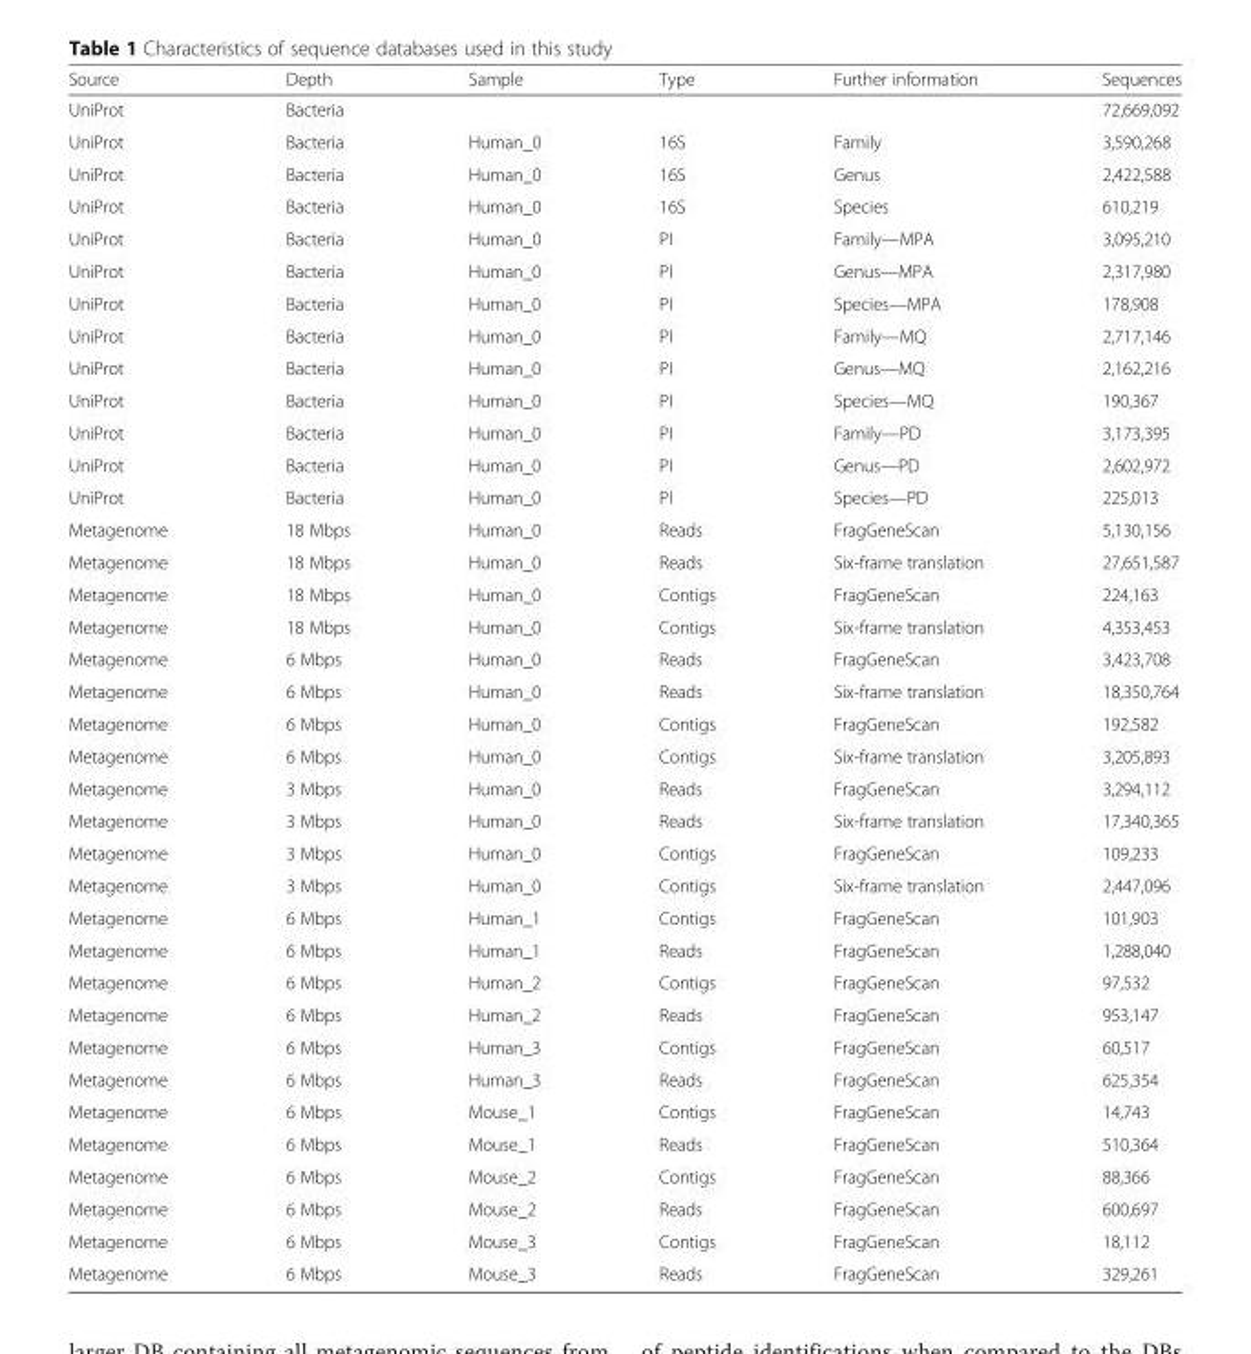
<table><thead><tr><td>Source</td><td>Depth</td><td>Sample</td><td>Type</td><td>Further information</td><td>Sequences</td></tr></thead><tbody><tr><td>UniProt</td><td>Bacteria</td><td></td><td></td><td></td><td>72,669,092</td></tr><tr><td>UniProt</td><td>Bacteria</td><td>Human_0</td><td>16S</td><td>Family</td><td>3,590,268</td></tr><tr><td>UniProt</td><td>Bacteria</td><td>Human_0</td><td>16S</td><td>Genus</td><td>2,422,588</td></tr><tr><td>UniProt</td><td>Bacteria</td><td>Human_0</td><td>16S</td><td>Species</td><td>610,219</td></tr><tr><td>UniProt</td><td>Bacteria</td><td>Human_0</td><td>PI</td><td>Family—MPA</td><td>3,095,210</td></tr><tr><td>UniProt</td><td>Bacteria</td><td>Human_0</td><td>PI</td><td>Genus—MPA</td><td>2,317,980</td></tr><tr><td>UniProt</td><td>Bacteria</td><td>Human_0</td><td>PI</td><td>Species—MPA</td><td>178,908</td></tr><tr><td>UniProt</td><td>Bacteria</td><td>Human_0</td><td>PI</td><td>Family—MQ</td><td>2,717,146</td></tr><tr><td>UniProt</td><td>Bacteria</td><td>Human_0</td><td>PI</td><td>Genus—MQ</td><td>2,162,216</td></tr><tr><td>UniProt</td><td>Bacteria</td><td>Human_0</td><td>PI</td><td>Species—MQ</td><td>190,367</td></tr><tr><td>UniProt</td><td>Bacteria</td><td>Human_0</td><td>PI</td><td>Family—PD</td><td>3,173,395</td></tr><tr><td>UniProt</td><td>Bacteria</td><td>Human_0</td><td>PI</td><td>Genus—PD</td><td>2,602,972</td></tr><tr><td>UniProt</td><td>Bacteria</td><td>Human_0</td><td>PI</td><td>Species—PD</td><td>225,013</td></tr><tr><td>Metagenome</td><td>18 Mbps</td><td>Human_0</td><td>Reads</td><td>FragGeneScan</td><td>5,130,156</td></tr><tr><td>Metagenome</td><td>18 Mbps</td><td>Human_0</td><td>Reads</td><td>Six-frame translation</td><td>27,651,587</td></tr><tr><td>Metagenome</td><td>18 Mbps</td><td>Human_0</td><td>Contigs</td><td>FragGeneScan</td><td>224,163</td></tr><tr><td>Metagenome</td><td>18 Mbps</td><td>Human_0</td><td>Contigs</td><td>Six-frame translation</td><td>4,353,453</td></tr><tr><td>Metagenome</td><td>6 Mbps</td><td>Human_0</td><td>Reads</td><td>FragGeneScan</td><td>3,423,708</td></tr><tr><td>Metagenome</td><td>6 Mbps</td><td>Human_0</td><td>Reads</td><td>Six-frame translation</td><td>18,350,764</td></tr><tr><td>Metagenome</td><td>6 Mbps</td><td>Human_0</td><td>Contigs</td><td>FragGeneScan</td><td>192,582</td></tr><tr><td>Metagenome</td><td>6 Mbps</td><td>Human_0</td><td>Contigs</td><td>Six-frame translation</td><td>3,205,893</td></tr><tr><td>Metagenome</td><td>3 Mbps</td><td>Human_0</td><td>Reads</td><td>FragGeneScan</td><td>3,294,112</td></tr><tr><td>Metagenome</td><td>3 Mbps</td><td>Human_0</td><td>Reads</td><td>Six-frame translation</td><td>17,340,365</td></tr><tr><td>Metagenome</td><td>3 Mbps</td><td>Human_0</td><td>Contigs</td><td>FragGeneScan</td><td>109,233</td></tr><tr><td>Metagenome</td><td>3 Mbps</td><td>Human_0</td><td>Contigs</td><td>Six-frame translation</td><td>2,447,096</td></tr><tr><td>Metagenome</td><td>6 Mbps</td><td>Human_1</td><td>Contigs</td><td>FragGeneScan</td><td>101,903</td></tr><tr><td>Metagenome</td><td>6 Mbps</td><td>Human_1</td><td>Reads</td><td>FragGeneScan</td><td>1,288,040</td></tr><tr><td>Metagenome</td><td>6 Mbps</td><td>Human_2</td><td>Contigs</td><td>FragGeneScan</td><td>97,532</td></tr><tr><td>Metagenome</td><td>6 Mbps</td><td>Human_2</td><td>Reads</td><td>FragGeneScan</td><td>953,147</td></tr><tr><td>Metagenome</td><td>6 Mbps</td><td>Human_3</td><td>Contigs</td><td>FragGeneScan</td><td>60,517</td></tr><tr><td>Metagenome</td><td>6 Mbps</td><td>Human_3</td><td>Reads</td><td>FragGeneScan</td><td>625,354</td></tr><tr><td>Metagenome</td><td>6 Mbps</td><td>Mouse_1</td><td>Contigs</td><td>FragGeneScan</td><td>14,743</td></tr><tr><td>Metagenome</td><td>6 Mbps</td><td>Mouse_1</td><td>Reads</td><td>FragGeneScan</td><td>510,364</td></tr><tr><td>Metagenome</td><td>6 Mbps</td><td>Mouse_2</td><td>Contigs</td><td>FragGeneScan</td><td>88,366</td></tr><tr><td>Metagenome</td><td>6 Mbps</td><td>Mouse_2</td><td>Reads</td><td>FragGeneScan</td><td>600,697</td></tr><tr><td>Metagenome</td><td>6 Mbps</td><td>Mouse_3</td><td>Contigs</td><td>FragGeneScan</td><td>18,112</td></tr><tr><td>Metagenome</td><td>6 Mbps</td><td>Mouse_3</td><td>Reads</td><td>FragGeneScan</td><td>329,261</td></tr></tbody></table>